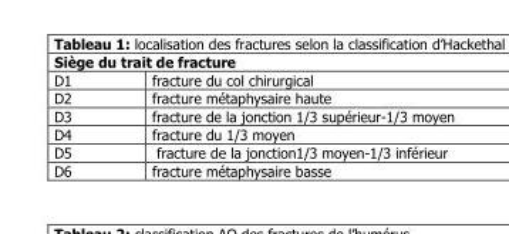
<table><thead><tr><td colspan="2">Siège du trait de fracture</td></tr><tr><td>D1</td><td>fracture du col chirurgical</td></tr></thead><tbody><tr><td>D2</td><td>fracture métaphysaire haute</td></tr><tr><td>D3</td><td>fracture de la jonction 1/3 supérieur-1/3 moyen</td></tr><tr><td>D4</td><td>fracture du 1/3 moyen</td></tr><tr><td>D5</td><td>fracture de la jonction1/3 moyen-1/3 inférieur</td></tr><tr><td>D6</td><td>fracture métaphysaire basse</td></tr></tbody></table>